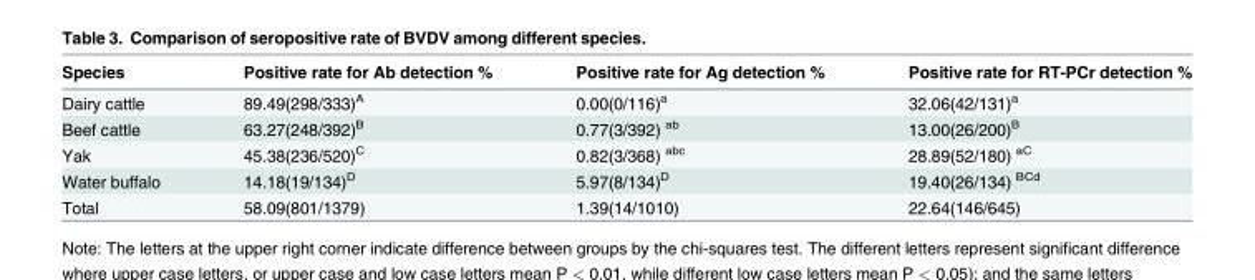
<table><thead><tr><td>Species</td><td>Positive rate for Ab detection %</td><td>Positive rate for Ag detection %</td><td>Positive rate for RT-PCr detection %</td></tr></thead><tbody><tr><td>Dairy cattle</td><td>89.49(298/333)<sup>A</sup></td><td>0.00(0/116)<sup>a</sup></td><td>32.06(42/131)<sup>a</sup></td></tr><tr><td>Beef cattle</td><td>63.27(248/392)<sup>B</sup></td><td>0.77(3/392) <sup>ab</sup></td><td>13.00(26/200)<sup>B</sup></td></tr><tr><td>Yak</td><td>45.38(236/520)<sup>C</sup></td><td>0.82(3/368) <sup>abc</sup></td><td>28.89(52/180) <sup>aC</sup></td></tr><tr><td>Water buffalo</td><td>14.18(19/134)<sup>D</sup></td><td>5.97(8/134)<sup>D</sup></td><td>19.40(26/134) <sup>BCd</sup></td></tr><tr><td>Total</td><td>58.09(801/1379)</td><td>1.39(14/1010)</td><td>22.64(146/645)</td></tr></tbody></table>